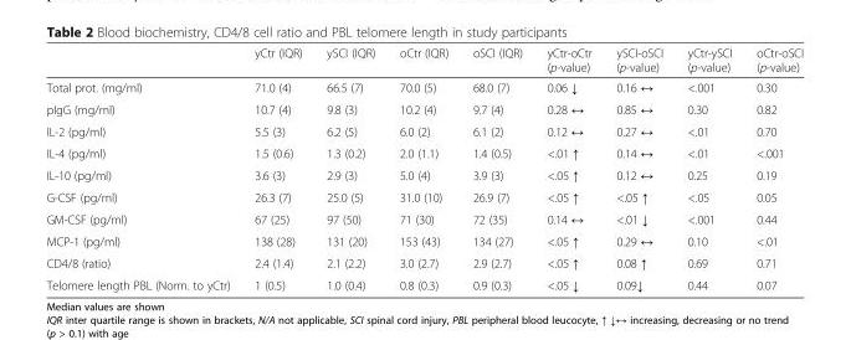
<table><thead><tr><td></td><td>yCtr (IQR)</td><td>ySCI (IQR)</td><td>oCtr (IQR)</td><td>oSCI (IQR)</td><td>yCtr-oCtr (p-value)</td><td>ySCI-oSCI (p-value)</td><td>yCtr-ySCI (p-value)</td><td>oCtr-oSCI (p-value)</td></tr></thead><tbody><tr><td>Total prot. (mg/ml)</td><td>71.0 (4)</td><td>66.5 (7)</td><td>70.0 (5)</td><td>68.0 (7)</td><td>0.06 ↓</td><td>0.16 ↔</td><td>&lt;.001</td><td>0.30</td></tr><tr><td>pIgG (mg/ml)</td><td>10.7 (4)</td><td>9.8 (3)</td><td>10.2 (4)</td><td>9.7 (4)</td><td>0.28 ↔</td><td>0.85 ↔</td><td>0.30</td><td>0.82</td></tr><tr><td>IL-2 (pg/ml)</td><td>5.5 (3)</td><td>6.2 (5)</td><td>6.0 (2)</td><td>6.1 (2)</td><td>0.12 ↔</td><td>0.27 ↔</td><td>&lt;.01</td><td>0.70</td></tr><tr><td>IL-4 (pg/ml)</td><td>1.5 (0.6)</td><td>1.3 (0.2)</td><td>2.0 (1.1)</td><td>1.4 (0.5)</td><td>&lt;.01 ↑</td><td>0.14 ↔</td><td>&lt;.01</td><td>&lt;.001</td></tr><tr><td>IL-10 (pg/ml)</td><td>3.6 (3)</td><td>2.9 (3)</td><td>5.0 (4)</td><td>3.9 (3)</td><td>&lt;.05 ↑</td><td>0.12 ↔</td><td>0.25</td><td>0.19</td></tr><tr><td>G-CSF (pg/ml)</td><td>26.3 (7)</td><td>25.0 (5)</td><td>31.0 (10)</td><td>26.9 (7)</td><td>&lt;.05 ↑</td><td>&lt;.05 ↑</td><td>&lt;.05</td><td>0.05</td></tr><tr><td>GM-CSF (pg/ml)</td><td>67 (25)</td><td>97 (50)</td><td>71 (30)</td><td>72 (35)</td><td>0.14 ↔</td><td>&lt;.01 ↓</td><td>&lt;.001</td><td>0.44</td></tr><tr><td>MCP-1 (pg/ml)</td><td>138 (28)</td><td>131 (20)</td><td>153 (43)</td><td>134 (27)</td><td>&lt;.05 ↑</td><td>0.29 ↔</td><td>0.10</td><td>&lt;.01</td></tr><tr><td>CD4/8 (ratio)</td><td>2.4 (1.4)</td><td>2.1 (2.2)</td><td>3.0 (2.7)</td><td>2.9 (2.7)</td><td>&lt;.05 ↑</td><td>0.08 ↑</td><td>0.69</td><td>0.71</td></tr><tr><td>Telomere length PBL (Norm. to yCtr)</td><td>1 (0.5)</td><td>1.0 (0.4)</td><td>0.8 (0.3)</td><td>0.9 (0.3)</td><td>&lt;.05 ↓</td><td>0.09↓</td><td>0.44</td><td>0.07</td></tr></tbody></table>